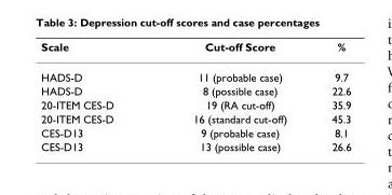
<table><thead><tr><td>Scale</td><td>Cut-off Score</td><td>%</td></tr></thead><tbody><tr><td>HADS-D</td><td>11 (probable case)</td><td>9.7</td></tr><tr><td>HADS-D</td><td>8 (possible case)</td><td>22.6</td></tr><tr><td>20-ITEM CES-D</td><td>19 (RA cut-off)</td><td>35.9</td></tr><tr><td>20-ITEM CES-D</td><td>16 (standard cut-off)</td><td>45.3</td></tr><tr><td>CES-D13</td><td>9 (probable case)</td><td>8.1</td></tr><tr><td>CES-D13</td><td>13 (possible case)</td><td>26.6</td></tr></tbody></table>